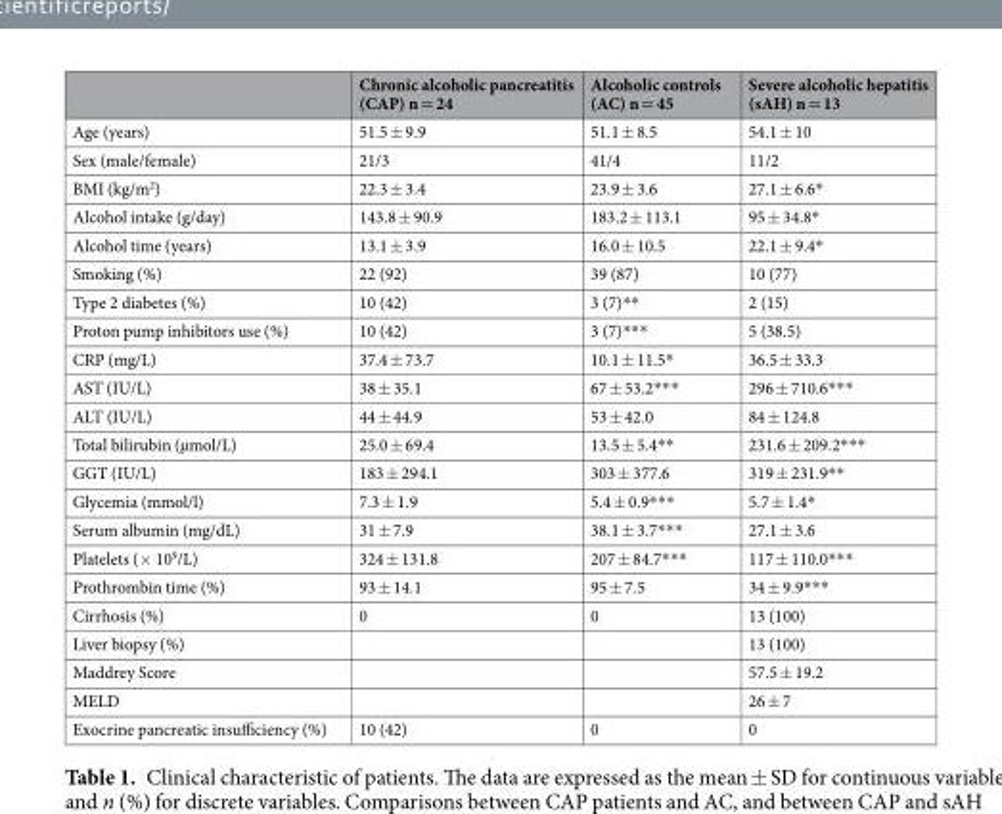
<table><thead><tr><td></td><td>Chronic alcoholic pancreatitis (CAP) n = 24</td><td>Alcoholic controls (AC) n = 45</td><td>Severe alcoholic hepatitis (sAH) n = 13</td></tr></thead><tbody><tr><td>Age (years)</td><td>51.5 ± 9.9</td><td>51.1 ± 8.5</td><td>54.1 ± 10</td></tr><tr><td>Sex (male/female)</td><td>21/3</td><td>41/4</td><td>11/2</td></tr><tr><td>BMI (kg/m<sup>2</sup>)</td><td>22.3 ± 3.4</td><td>23.9 ± 3.6</td><td>27.1 ± 6.6*</td></tr><tr><td>Alcohol intake (g/day)</td><td>143.8 ± 90.9</td><td>183.2 ± 113.1</td><td>95 ± 34.8*</td></tr><tr><td>Alcohol time (years)</td><td>13.1 ± 3.9</td><td>16.0 ± 10.5</td><td>22.1 ± 9.4*</td></tr><tr><td>Smoking (%)</td><td>22 (92)</td><td>39 (87)</td><td>10 (77)</td></tr><tr><td>Type 2 diabetes (%)</td><td>10 (42)</td><td>3 (7)**</td><td>2 (15)</td></tr><tr><td>Proton pump inhibitors use (%)</td><td>10 (42)</td><td>3 (7)***</td><td>5 (38.5)</td></tr><tr><td>CRP (mg/L)</td><td>37.4 ± 73.7</td><td>10.1 ± 11.5*</td><td>36.5 ± 33.3</td></tr><tr><td>AST (IU/L)</td><td>38 ± 35.1</td><td>67 ± 53.2***</td><td>296 ± 710.6***</td></tr><tr><td>ALT (IU/L)</td><td>44 ± 44.9</td><td>53 ± 42.0</td><td>84 ± 124.8</td></tr><tr><td>Total bilirubin (µmol/L)</td><td>25.0 ± 69.4</td><td>13.5 ± 5.4**</td><td>231.6 ± 209.2***</td></tr><tr><td>GGT (IU/L)</td><td>183 ± 294.1</td><td>303 ± 377.6</td><td>319 ± 231.9**</td></tr><tr><td>Glycemia (mmol/l)</td><td>7.3 ± 1.9</td><td>5.4 ± 0.9***</td><td>5.7 ± 1.4*</td></tr><tr><td>Serum albumin (mg/dL)</td><td>31 ± 7.9</td><td>38.1 ± 3.7***</td><td>27.1 ± 3.6</td></tr><tr><td>Platelets (× 10<sup>9</sup>/L)</td><td>324 ± 131.8</td><td>207 ± 84.7***</td><td>117 ± 110.0***</td></tr><tr><td>Prothrombin time (%)</td><td>93 ± 14.1</td><td>95 ± 7.5</td><td>34 ± 9.9***</td></tr><tr><td>Cirrhosis (%)</td><td>0</td><td>0</td><td>13 (100)</td></tr><tr><td>Liver biopsy (%)</td><td></td><td></td><td>13 (100)</td></tr><tr><td>Maddrey Score</td><td></td><td></td><td>57.5 ± 19.2</td></tr><tr><td>MELD</td><td></td><td></td><td>26 ± 7</td></tr><tr><td>Exocrine pancreatic insufficiency (%)</td><td>10 (42)</td><td>0</td><td>0</td></tr></tbody></table>